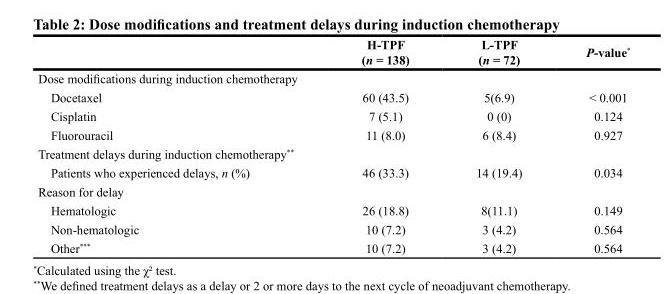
<table><thead><tr><td></td><td>H-TPF (n = 138)</td><td>L-TPF (n = 72)</td><td>P-value*</td></tr></thead><tbody><tr><td colspan="4">Dose modifications during induction chemotherapy</td></tr><tr><td>Docetaxel</td><td>60 (43.5)</td><td>5(6.9)</td><td>&lt; 0.001</td></tr><tr><td>Cisplatin</td><td>7 (5.1)</td><td>0 (0)</td><td>0.124</td></tr><tr><td>Fluorouracil</td><td>11 (8.0)</td><td>6 (8.4)</td><td>0.927</td></tr><tr><td colspan="4">Treatment delays during induction chemotherapy**</td></tr><tr><td>Patients who experienced delays, n (%)</td><td>46 (33.3)</td><td>14 (19.4)</td><td>0.034</td></tr><tr><td colspan="4">Reason for delay</td></tr><tr><td>Hematologic</td><td>26 (18.8)</td><td>8(11.1)</td><td>0.149</td></tr><tr><td>Non-hematologic</td><td>10 (7.2)</td><td>3 (4.2)</td><td>0.564</td></tr><tr><td>Other***</td><td>10 (7.2)</td><td>3 (4.2)</td><td>0.564</td></tr></tbody></table>